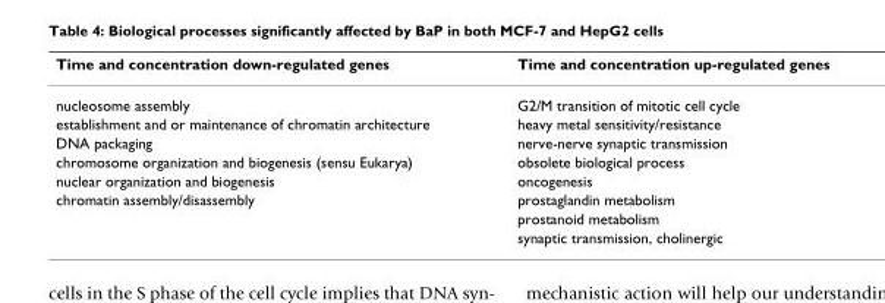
<table><thead><tr><td>Time and concentration down-regulated genes</td><td>Time and concentration up-regulated genes</td></tr></thead><tbody><tr><td>nucleosome assembly</td><td>G2/M transition of mitotic cell cycle</td></tr><tr><td>establishment and or maintenance of chromatin architecture</td><td>heavy metal sensitivity/resistance</td></tr><tr><td>DNA packaging</td><td>nerve-nerve synaptic transmission</td></tr><tr><td>chromosome organization and biogenesis (sensu Eukarya)</td><td>obsolete biological process</td></tr><tr><td>nuclear organization and biogenesis</td><td>oncogenesis</td></tr><tr><td rowspan="3">chromatin assembly/disassembly</td><td>prostaglandin metabolism</td></tr><tr><td>prostanoid metabolism</td></tr><tr><td>synaptic transmission, cholinergic</td></tr></tbody></table>